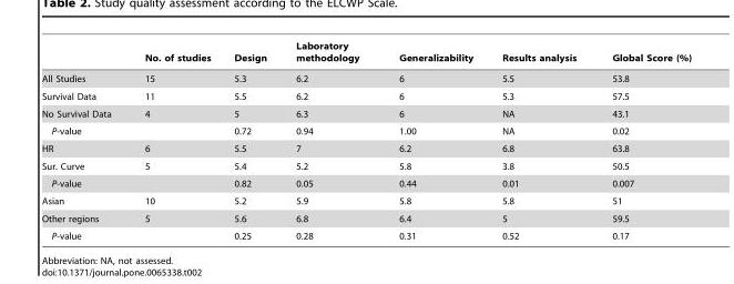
<table><thead><tr><td></td><td>No. of studies</td><td>Design</td><td>Laboratory methodology</td><td>Generalizability</td><td>Results analysis</td><td>Global Score (%)</td></tr></thead><tbody><tr><td>All Studies</td><td>15</td><td>5.3</td><td>6.2</td><td>6</td><td>5.5</td><td>53.8</td></tr><tr><td>Survival Data</td><td>11</td><td>5.5</td><td>6.2</td><td>6</td><td>5.3</td><td>57.5</td></tr><tr><td>No Survival Data</td><td>4</td><td>5</td><td>6.3</td><td>6</td><td>NA</td><td>43.1</td></tr><tr><td>P-value</td><td></td><td>0.72</td><td>0.94</td><td>1.00</td><td>NA</td><td>0.02</td></tr><tr><td>HR</td><td>6</td><td>5.5</td><td>7</td><td>6.2</td><td>6.8</td><td>63.8</td></tr><tr><td>Sur. Curve</td><td>5</td><td>5.4</td><td>5.2</td><td>5.8</td><td>3.8</td><td>50.5</td></tr><tr><td>P-value</td><td></td><td>0.82</td><td>0.05</td><td>0.44</td><td>0.01</td><td>0.007</td></tr><tr><td>Asian</td><td>10</td><td>5.2</td><td>5.9</td><td>5.8</td><td>5.8</td><td>51</td></tr><tr><td>Other regions</td><td>5</td><td>5.6</td><td>6.8</td><td>6.4</td><td>5</td><td>59.5</td></tr><tr><td>P-value</td><td></td><td>0.25</td><td>0.28</td><td>0.31</td><td>0.52</td><td>0.17</td></tr></tbody></table>